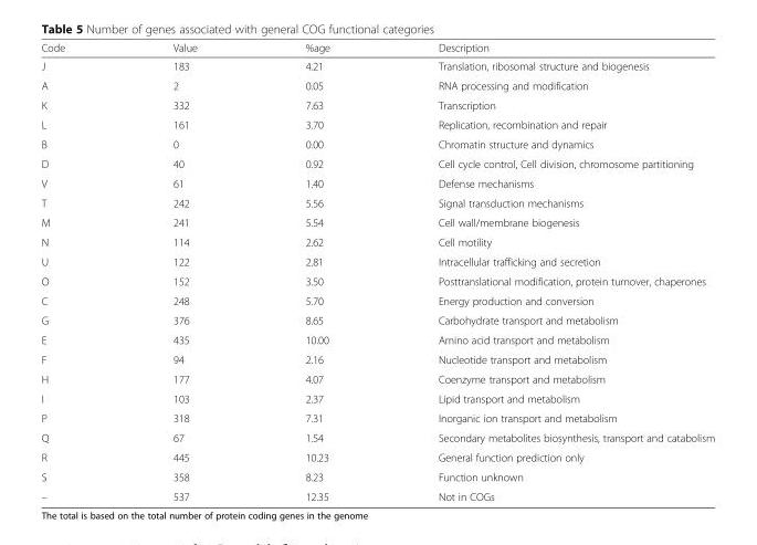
<table><thead><tr><td>Code</td><td>Value</td><td>%age</td><td>Description</td></tr></thead><tbody><tr><td>J</td><td>183</td><td>4.21</td><td>Translation, ribosomal structure and biogenesis</td></tr><tr><td>A</td><td>2</td><td>0.05</td><td>RNA processing and modification</td></tr><tr><td>K</td><td>332</td><td>7.63</td><td>Transcription</td></tr><tr><td>L</td><td>161</td><td>3.70</td><td>Replication, recombination and repair</td></tr><tr><td>B</td><td>0</td><td>0.00</td><td>Chromatin structure and dynamics</td></tr><tr><td>D</td><td>40</td><td>0.92</td><td>Cell cycle control, Cell division, chromosome partitioning</td></tr><tr><td>V</td><td>61</td><td>1.40</td><td>Defense mechanisms</td></tr><tr><td>T</td><td>242</td><td>5.56</td><td>Signal transduction mechanisms</td></tr><tr><td>M</td><td>241</td><td>5.54</td><td>Cell wall/membrane biogenesis</td></tr><tr><td>N</td><td>114</td><td>2.62</td><td>Cell motility</td></tr><tr><td>U</td><td>122</td><td>2.81</td><td>Intracellular trafficking and secretion</td></tr><tr><td>O</td><td>152</td><td>3.50</td><td>Posttranslational modification, protein turnover, chaperones</td></tr><tr><td>C</td><td>248</td><td>5.70</td><td>Energy production and conversion</td></tr><tr><td>G</td><td>376</td><td>8.65</td><td>Carbohydrate transport and metabolism</td></tr><tr><td>E</td><td>435</td><td>10.00</td><td>Amino acid transport and metabolism</td></tr><tr><td>F</td><td>94</td><td>2.16</td><td>Nucleotide transport and metabolism</td></tr><tr><td>H</td><td>177</td><td>4.07</td><td>Coenzyme transport and metabolism</td></tr><tr><td>I</td><td>103</td><td>2.37</td><td>Lipid transport and metabolism</td></tr><tr><td>P</td><td>318</td><td>7.31</td><td>Inorganic ion transport and metabolism</td></tr><tr><td>Q</td><td>67</td><td>1.54</td><td>Secondary metabolites biosynthesis, transport and catabolism</td></tr><tr><td>R</td><td>445</td><td>10.23</td><td>General function prediction only</td></tr><tr><td>S</td><td>358</td><td>8.23</td><td>Function unknown</td></tr><tr><td>–</td><td>537</td><td>12.35</td><td>Not in COGs</td></tr></tbody></table>